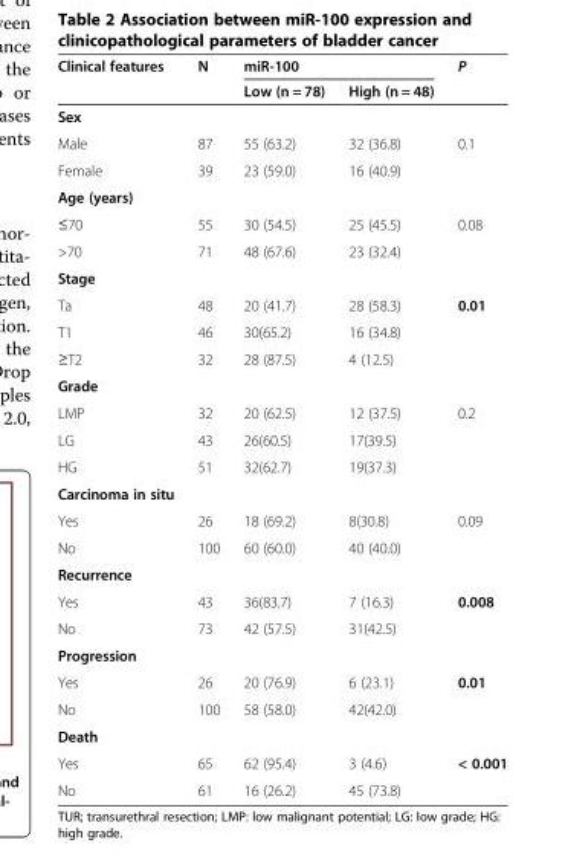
<table><thead><tr><td rowspan="2">Clinical features</td><td rowspan="2">N</td><td colspan="2">miR-100</td><td rowspan="2">P</td></tr><tr><td>Low (n = 78)</td><td>High (n = 48)</td></tr></thead><tbody><tr><td colspan="5">Sex</td></tr><tr><td>Male</td><td>87</td><td>55 (63.2)</td><td>32 (36.8)</td><td rowspan="2">0.1</td></tr><tr><td>Female</td><td>39</td><td>23 (59.0)</td><td>16 (40.9)</td></tr><tr><td colspan="5">Age (years)</td></tr><tr><td>≤70</td><td>55</td><td>30 (54.5)</td><td>25 (45.5)</td><td rowspan="2">0.08</td></tr><tr><td>&gt;70</td><td>71</td><td>48 (67.6)</td><td>23 (32.4)</td></tr><tr><td colspan="5">Stage</td></tr><tr><td>Ta</td><td>48</td><td>20 (41.7)</td><td>28 (58.3)</td><td rowspan="3">0.01</td></tr><tr><td>T1</td><td>46</td><td>30(65.2)</td><td>16 (34.8)</td></tr><tr><td>≥T2</td><td>32</td><td>28 (87.5)</td><td>4 (12.5)</td></tr><tr><td colspan="5">Grade</td></tr><tr><td>LMP</td><td>32</td><td>20 (62.5)</td><td>12 (37.5)</td><td rowspan="3">0.2</td></tr><tr><td>LG</td><td>43</td><td>26(60.5)</td><td>17(39.5)</td></tr><tr><td>HG</td><td>51</td><td>32(62.7)</td><td>19(37.3)</td></tr><tr><td colspan="5">Carcinoma in situ</td></tr><tr><td>Yes</td><td>26</td><td>18 (69.2)</td><td>8(30.8)</td><td rowspan="2">0.09</td></tr><tr><td>No</td><td>100</td><td>60 (60.0)</td><td>40 (40.0)</td></tr><tr><td colspan="5">Recurrence</td></tr><tr><td>Yes</td><td>43</td><td>36(83.7)</td><td>7 (16.3)</td><td rowspan="2">0.008</td></tr><tr><td>No</td><td>73</td><td>42 (57.5)</td><td>31(42.5)</td></tr><tr><td colspan="5">Progression</td></tr><tr><td>Yes</td><td>26</td><td>20 (76.9)</td><td>6 (23.1)</td><td rowspan="2">0.01</td></tr><tr><td>No</td><td>100</td><td>58 (58.0)</td><td>42(42.0)</td></tr><tr><td colspan="5">Death</td></tr><tr><td>Yes</td><td>65</td><td>62 (95.4)</td><td>3 (4.6)</td><td rowspan="2">&lt; 0.001</td></tr><tr><td>No</td><td>61</td><td>16 (26.2)</td><td>45 (73.8)</td></tr></tbody></table>